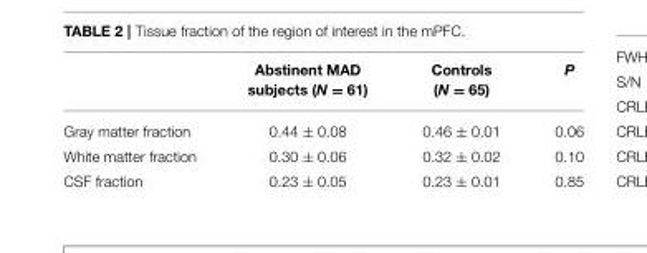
<table><thead><tr><td></td><td>Abstinent MAD subjects (N = 61)</td><td>Controls (N = 65)</td><td>P</td></tr></thead><tbody><tr><td>Gray matter fraction</td><td>0.44 ± 0.08</td><td>0.46 ± 0.01</td><td>0.06</td></tr><tr><td>White matter fraction</td><td>0.30 ± 0.06</td><td>0.32 ± 0.02</td><td>0.10</td></tr><tr><td>CSF fraction</td><td>0.23 ± 0.05</td><td>0.23 ± 0.01</td><td>0.85</td></tr></tbody></table>